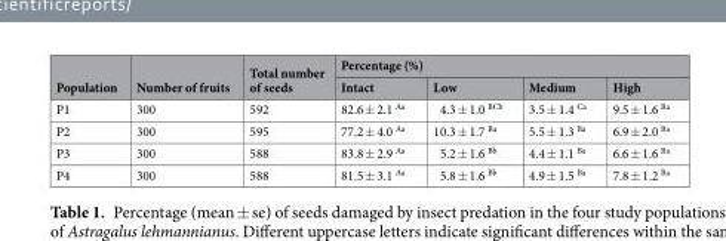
<table><thead><tr><td rowspan="2">Population</td><td rowspan="2">Number of fruits</td><td rowspan="2">Total number of seeds</td><td colspan="4">Percentage (%)</td></tr><tr><td>Intact</td><td>Low</td><td>Medium</td><td>High</td></tr></thead><tbody><tr><td>P1</td><td>300</td><td>592</td><td>82.6 ± 2.1 <sup>Aa</sup></td><td>4.3 ± 1.0 <sup>BCb</sup></td><td>3.5 ± 1.4 <sup>Ca</sup></td><td>9.5 ± 1.6 <sup>Ba</sup></td></tr><tr><td>P2</td><td>300</td><td>595</td><td>77.2 ± 4.0 <sup>Aa</sup></td><td>10.3 ± 1.7 <sup>Ba</sup></td><td>5.5 ± 1.3 <sup>Ba</sup></td><td>6.9 ± 2.0 <sup>Ba</sup></td></tr><tr><td>P3</td><td>300</td><td>588</td><td>83.8 ± 2.9 <sup>Aa</sup></td><td>5.2 ± 1.6 <sup>Bb</sup></td><td>4.4 ± 1.1 <sup>Ba</sup></td><td>6.6 ± 1.6 <sup>Ba</sup></td></tr><tr><td>P4</td><td>300</td><td>588</td><td>81.5 ± 3.1 <sup>Aa</sup></td><td>5.8 ± 1.6 <sup>Bb</sup></td><td>4.9 ± 1.5 <sup>Ba</sup></td><td>7.8 ± 1.2 <sup>Ba</sup></td></tr></tbody></table>